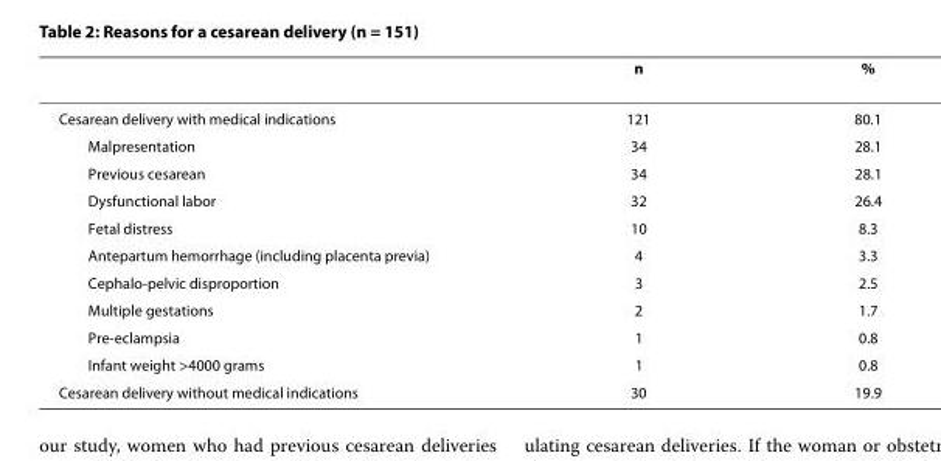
<table><thead><tr><td></td><td>n</td><td>%</td></tr></thead><tbody><tr><td>Cesarean delivery with medical indications</td><td>121</td><td>80.1</td></tr><tr><td>Malpresentation</td><td>34</td><td>28.1</td></tr><tr><td>Previous cesarean</td><td>34</td><td>28.1</td></tr><tr><td>Dysfunctional labor</td><td>32</td><td>26.4</td></tr><tr><td>Fetal distress</td><td>10</td><td>8.3</td></tr><tr><td>Antepartum hemorrhage (including placenta previa)</td><td>4</td><td>3.3</td></tr><tr><td>Cephalo-pelvic disproportion</td><td>3</td><td>2.5</td></tr><tr><td>Multiple gestations</td><td>2</td><td>1.7</td></tr><tr><td>Pre-eclampsia</td><td>1</td><td>0.8</td></tr><tr><td>Infant weight &gt;4000 grams</td><td>1</td><td>0.8</td></tr><tr><td>Cesarean delivery without medical indications</td><td>30</td><td>19.9</td></tr></tbody></table>